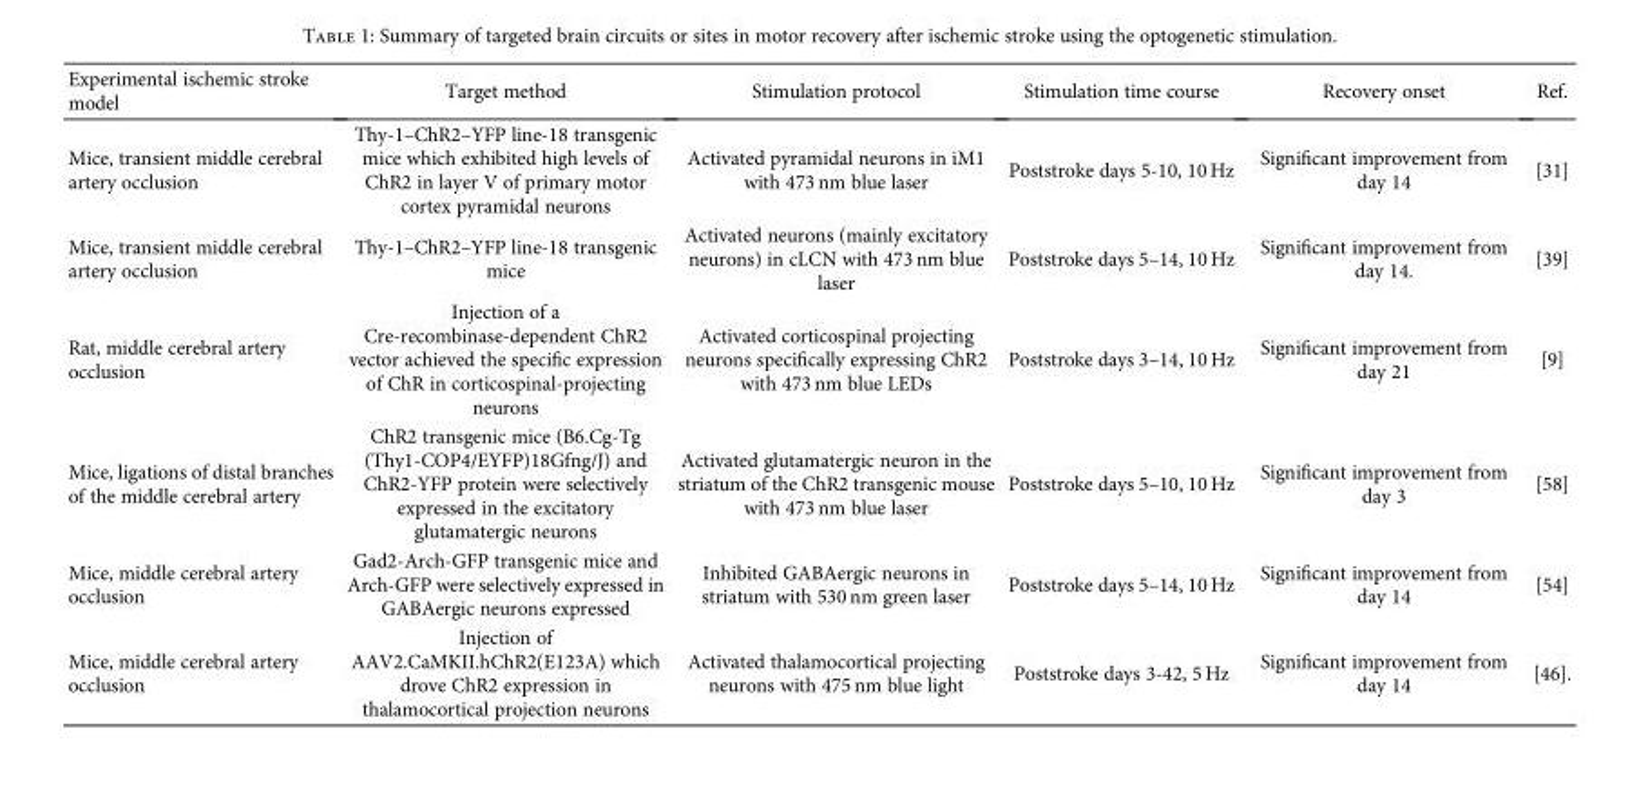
<table><thead><tr><td>Experimental ischemic stroke model</td><td>Target method</td><td>Stimulation protocol</td><td>Stimulation time course</td><td>Recovery onset</td><td>Ref.</td></tr></thead><tbody><tr><td>Mice, transient middle cerebral artery occlusion</td><td>Thy-1–ChR2–YFP line-18 transgenic mice which exhibited high levels of ChR2 in layer V of primary motor cortex pyramidal neurons</td><td>Activated pyramidal neurons in iM1 with 473 nm blue laser</td><td>Poststroke days 5-10, 10 Hz</td><td>Significant improvement from day 14</td><td>[31]</td></tr><tr><td>Mice, transient middle cerebral artery occlusion</td><td>Thy-1–ChR2–YFP line-18 transgenic mice</td><td>Activated neurons (mainly excitatory neurons) in cLCN with 473 nm blue laser</td><td>Poststroke days 5–14, 10 Hz</td><td>Significant improvement from day 14.</td><td>[39]</td></tr><tr><td>Rat, middle cerebral artery occlusion</td><td>Injection of a Cre-recombinase-dependent ChR2 vector achieved the specific expression of ChR in corticospinal-projecting neurons</td><td>Activated corticospinal projecting neurons specifically expressing ChR2 with 473 nm blue LEDs</td><td>Poststroke days 3–14, 10 Hz</td><td>Significant improvement from day 21</td><td>[9]</td></tr><tr><td>Mice, ligations of distal branches of the middle cerebral artery</td><td>ChR2 transgenic mice (B6.Cg-Tg (Thy1-COP4/EYFP)18Gfng/J) and ChR2-YFP protein were selectively expressed in the excitatory glutamatergic neurons</td><td>Activated glutamatergic neuron in the striatum of the ChR2 transgenic mouse with 473 nm blue laser</td><td>Poststroke days 5–10, 10 Hz</td><td>Significant improvement from day 3</td><td>[58]</td></tr><tr><td>Mice, middle cerebral artery occlusion</td><td>Gad2-Arch-GFP transgenic mice and Arch-GFP were selectively expressed in GABAergic neurons expressed</td><td>Inhibited GABAergic neurons in striatum with 530 nm green laser</td><td>Poststroke days 5–14, 10 Hz</td><td>Significant improvement from day 14</td><td>[54]</td></tr><tr><td>Mice, middle cerebral artery occlusion</td><td>Injection of AAV2.CaMKII.hChR2(E123A) which drove ChR2 expression in thalamocortical projection neurons</td><td>Activated thalamocortical projecting neurons with 475 nm blue light</td><td>Poststroke days 3-42, 5 Hz</td><td>Significant improvement from day 14</td><td>[46].</td></tr></tbody></table>